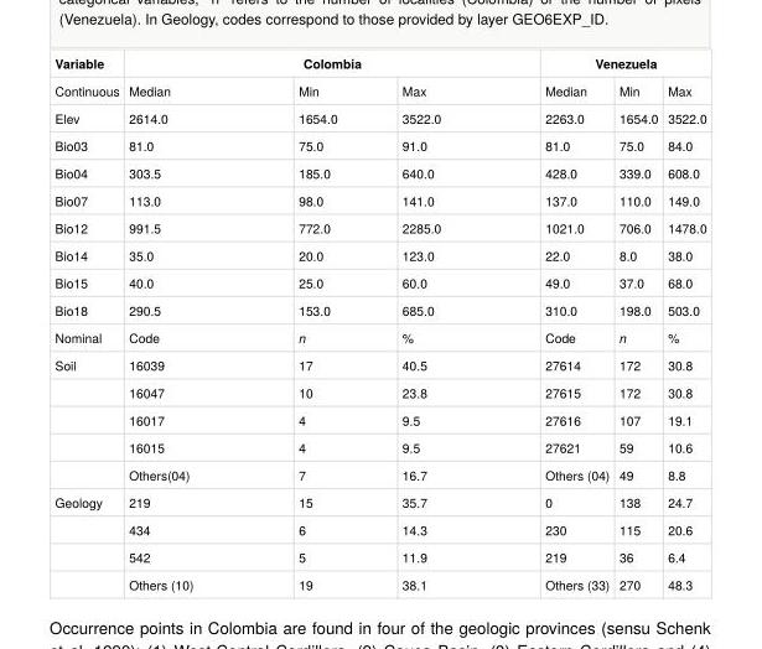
<table><tbody><tr><td>Variable</td><td colspan="3">Colombia</td><td colspan="3">Venezuela</td></tr><tr><td>Continuous</td><td>Median</td><td>Min</td><td>Max</td><td>Median</td><td>Min</td><td>Max</td></tr><tr><td>Elev</td><td>2614.0</td><td>1654.0</td><td>3522.0</td><td>2263.0</td><td>1654.0</td><td>3522.0</td></tr><tr><td>Bio03</td><td>81.0</td><td>75.0</td><td>91.0</td><td>81.0</td><td>75.0</td><td>84.0</td></tr><tr><td>Bio04</td><td>303.5</td><td>185.0</td><td>640.0</td><td>428.0</td><td>339.0</td><td>608.0</td></tr><tr><td>Bio07</td><td>113.0</td><td>98.0</td><td>141.0</td><td>137.0</td><td>110.0</td><td>149.0</td></tr><tr><td>Bio12</td><td>991.5</td><td>772.0</td><td>2285.0</td><td>1021.0</td><td>706.0</td><td>1478.0</td></tr><tr><td>Bio14</td><td>35.0</td><td>20.0</td><td>123.0</td><td>22.0</td><td>8.0</td><td>38.0</td></tr><tr><td>Bio15</td><td>40.0</td><td>25.0</td><td>60.0</td><td>49.0</td><td>37.0</td><td>68.0</td></tr><tr><td>Bio18</td><td>290.5</td><td>153.0</td><td>685.0</td><td>310.0</td><td>198.0</td><td>503.0</td></tr><tr><td>Nominal</td><td>Code</td><td>n</td><td>%</td><td>Code</td><td>n</td><td>%</td></tr><tr><td rowspan="5">Soil</td><td>16039</td><td>17</td><td>40.5</td><td>27614</td><td>172</td><td>30.8</td></tr><tr><td>16047</td><td>10</td><td>23.8</td><td>27615</td><td>172</td><td>30.8</td></tr><tr><td>16017</td><td>4</td><td>9.5</td><td>27616</td><td>107</td><td>19.1</td></tr><tr><td>16015</td><td>4</td><td>9.5</td><td>27621</td><td>59</td><td>10.6</td></tr><tr><td>Others(04)</td><td>7</td><td>16.7</td><td>Others (04)</td><td>49</td><td>8.8</td></tr><tr><td rowspan="4">Geology</td><td>219</td><td>15</td><td>35.7</td><td>0</td><td>138</td><td>24.7</td></tr><tr><td>434</td><td>6</td><td>14.3</td><td>230</td><td>115</td><td>20.6</td></tr><tr><td>542</td><td>5</td><td>11.9</td><td>219</td><td>36</td><td>6.4</td></tr><tr><td>Others (10)</td><td>19</td><td>38.1</td><td>Others (33)</td><td>270</td><td>48.3</td></tr></tbody></table>